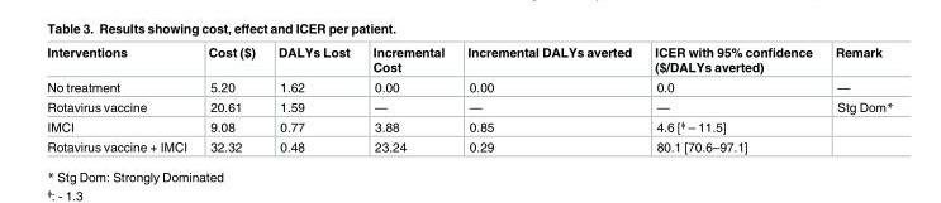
<table><thead><tr><td>Interventions</td><td>Cost ($)</td><td>DALYs Lost</td><td>Incremental Cost</td><td>Incremental DALYs averted</td><td>ICER with 95% confidence ($/DALYs averted)</td><td>Remark</td></tr></thead><tbody><tr><td>No treatment</td><td>5.20</td><td>1.62</td><td>0.00</td><td>0.00</td><td>0.0</td><td>—</td></tr><tr><td>Rotavirus vaccine</td><td>20.61</td><td>1.59</td><td>—</td><td>—</td><td>—</td><td>Stg Dom*</td></tr><tr><td>IMCI</td><td>9.08</td><td>0.77</td><td>3.88</td><td>0.85</td><td>4.6 [ᶲ – 11.5]</td><td></td></tr><tr><td>Rotavirus vaccine + IMCI</td><td>32.32</td><td>0.48</td><td>23.24</td><td>0.29</td><td>80.1 [70.6–97.1]</td><td></td></tr></tbody></table>